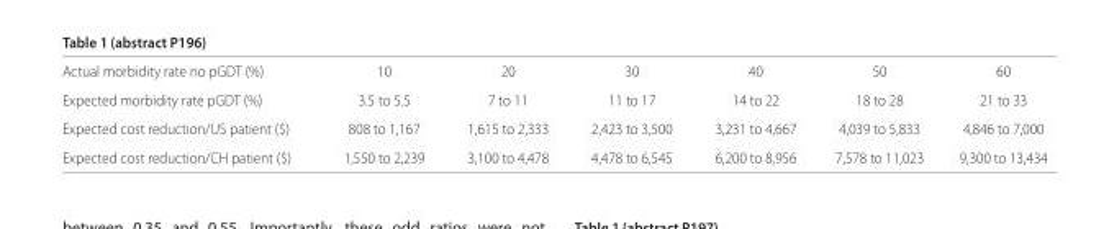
<table><tbody><tr><td>Actual morbidity rate no pGDT (%)</td><td>10</td><td>20</td><td>30</td><td>40</td><td>50</td><td>60</td></tr><tr><td>Expected morbidity rate pGDT (%)</td><td>3.5 to 5.5</td><td>7 to 11</td><td>11 to 17</td><td>14 to 22</td><td>18 to 28</td><td>21 to 33</td></tr><tr><td>Expected cost reduction/US patient ($)</td><td>808 to 1,167</td><td>1,615 to 2,333</td><td>2,423 to 3,500</td><td>3,231 to 4,667</td><td>4,039 to 5,833</td><td>4,846 to 7,000</td></tr><tr><td>Expected cost reduction/CH patient ($)</td><td>1,550 to 2,239</td><td>3,100 to 4,478</td><td>4,478 to 6,545</td><td>6,200 to 8,956</td><td>7,578 to 11,023</td><td>9,300 to 13,434</td></tr></tbody></table>